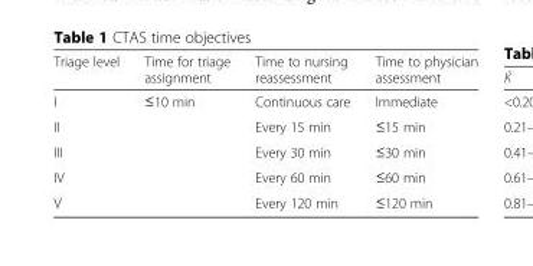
<table><thead><tr><td>Triage level</td><td>Time for triage assignment</td><td>Time to nursing reassessment</td><td>Time to physician assessment</td></tr></thead><tbody><tr><td>I</td><td rowspan="5">≤10 min</td><td>Continuous care</td><td>Immediate</td></tr><tr><td>II</td><td>Every 15 min</td><td>≤15 min</td></tr><tr><td>III</td><td>Every 30 min</td><td>≤30 min</td></tr><tr><td>IV</td><td>Every 60 min</td><td>≤60 min</td></tr><tr><td>V</td><td>Every 120 min</td><td>≤120 min</td></tr></tbody></table>